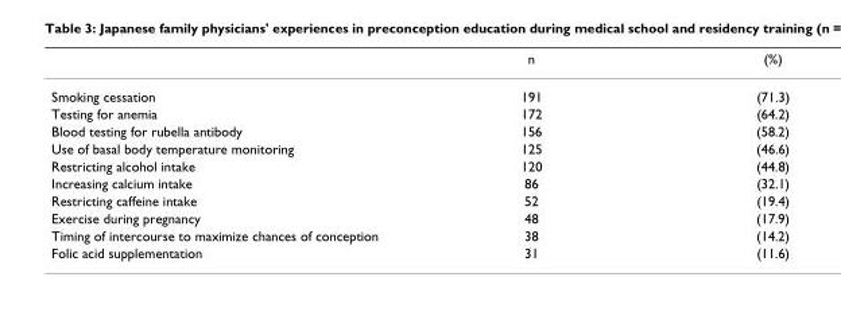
<table><thead><tr><td></td><td>n</td><td>(%)</td></tr></thead><tbody><tr><td>Smoking cessation</td><td>191</td><td>(71.3)</td></tr><tr><td>Testing for anemia</td><td>172</td><td>(64.2)</td></tr><tr><td>Blood testing for rubella antibody</td><td>156</td><td>(58.2)</td></tr><tr><td>Use of basal body temperature monitoring</td><td>125</td><td>(46.6)</td></tr><tr><td>Restricting alcohol intake</td><td>120</td><td>(44.8)</td></tr><tr><td>Increasing calcium intake</td><td>86</td><td>(32.1)</td></tr><tr><td>Restricting caffeine intake</td><td>52</td><td>(19.4)</td></tr><tr><td>Exercise during pregnancy</td><td>48</td><td>(17.9)</td></tr><tr><td>Timing of intercourse to maximize chances of conception</td><td>38</td><td>(14.2)</td></tr><tr><td>Folic acid supplementation</td><td>31</td><td>(11.6)</td></tr></tbody></table>